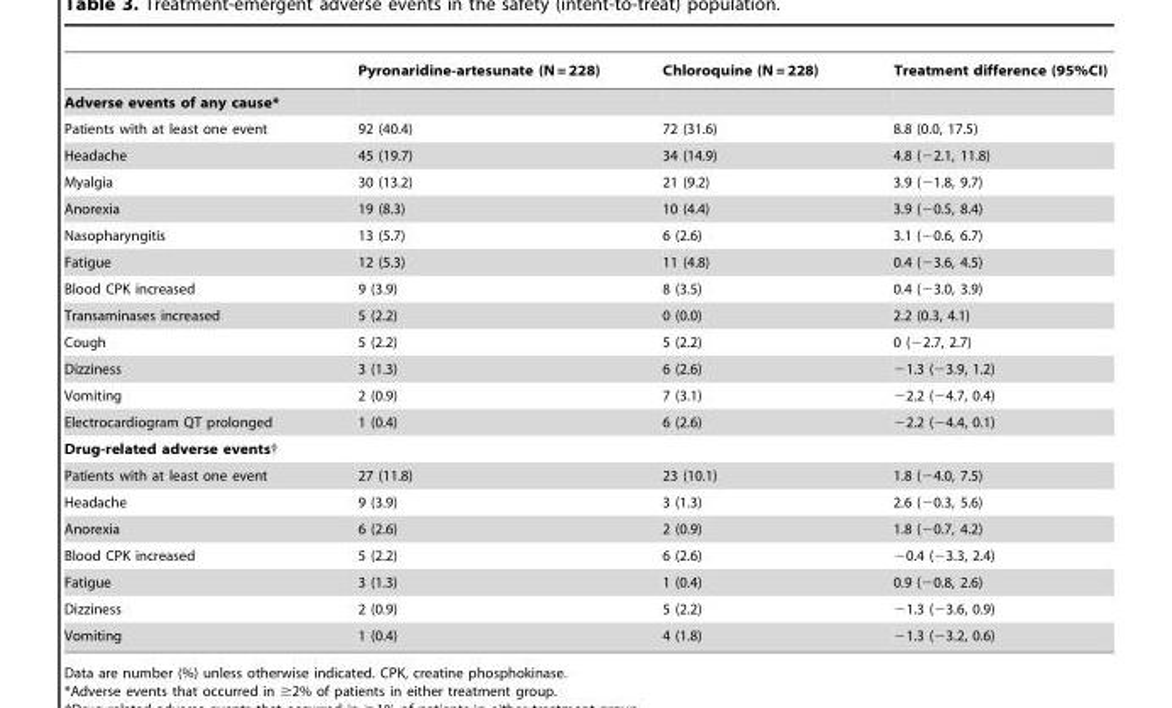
<table><thead><tr><td></td><td>Pyronaridine-artesunate (N = 228)</td><td>Chloroquine (N = 228)</td><td>Treatment difference (95%CI)</td></tr></thead><tbody><tr><td colspan="4">Adverse events of any cause*</td></tr><tr><td>Patients with at least one event</td><td>92 (40.4)</td><td>72 (31.6)</td><td>8.8 (0.0, 17.5)</td></tr><tr><td>Headache</td><td>45 (19.7)</td><td>34 (14.9)</td><td>4.8 (−2.1, 11.8)</td></tr><tr><td>Myalgia</td><td>30 (13.2)</td><td>21 (9.2)</td><td>3.9 (−1.8, 9.7)</td></tr><tr><td>Anorexia</td><td>19 (8.3)</td><td>10 (4.4)</td><td>3.9 (−0.5, 8.4)</td></tr><tr><td>Nasopharyngitis</td><td>13 (5.7)</td><td>6 (2.6)</td><td>3.1 (−0.6, 6.7)</td></tr><tr><td>Fatigue</td><td>12 (5.3)</td><td>11 (4.8)</td><td>0.4 (−3.6, 4.5)</td></tr><tr><td>Blood CPK increased</td><td>9 (3.9)</td><td>8 (3.5)</td><td>0.4 (−3.0, 3.9)</td></tr><tr><td>Transaminases increased</td><td>5 (2.2)</td><td>0 (0.0)</td><td>2.2 (0.3, 4.1)</td></tr><tr><td>Cough</td><td>5 (2.2)</td><td>5 (2.2)</td><td>0 (−2.7, 2.7)</td></tr><tr><td>Dizziness</td><td>3 (1.3)</td><td>6 (2.6)</td><td>−1.3 (−3.9, 1.2)</td></tr><tr><td>Vomiting</td><td>2 (0.9)</td><td>7 (3.1)</td><td>−2.2 (−4.7, 0.4)</td></tr><tr><td>Electrocardiogram QT prolonged</td><td>1 (0.4)</td><td>6 (2.6)</td><td>−2.2 (−4.4, 0.1)</td></tr><tr><td colspan="4">Drug-related adverse events†</td></tr><tr><td>Patients with at least one event</td><td>27 (11.8)</td><td>23 (10.1)</td><td>1.8 (−4.0, 7.5)</td></tr><tr><td>Headache</td><td>9 (3.9)</td><td>3 (1.3)</td><td>2.6 (−0.3, 5.6)</td></tr><tr><td>Anorexia</td><td>6 (2.6)</td><td>2 (0.9)</td><td>1.8 (−0.7, 4.2)</td></tr><tr><td>Blood CPK increased</td><td>5 (2.2)</td><td>6 (2.6)</td><td>−0.4 (−3.3, 2.4)</td></tr><tr><td>Fatigue</td><td>3 (1.3)</td><td>1 (0.4)</td><td>0.9 (−0.8, 2.6)</td></tr><tr><td>Dizziness</td><td>2 (0.9)</td><td>5 (2.2)</td><td>−1.3 (−3.6, 0.9)</td></tr><tr><td>Vomiting</td><td>1 (0.4)</td><td>4 (1.8)</td><td>−1.3 (−3.2, 0.6)</td></tr></tbody></table>